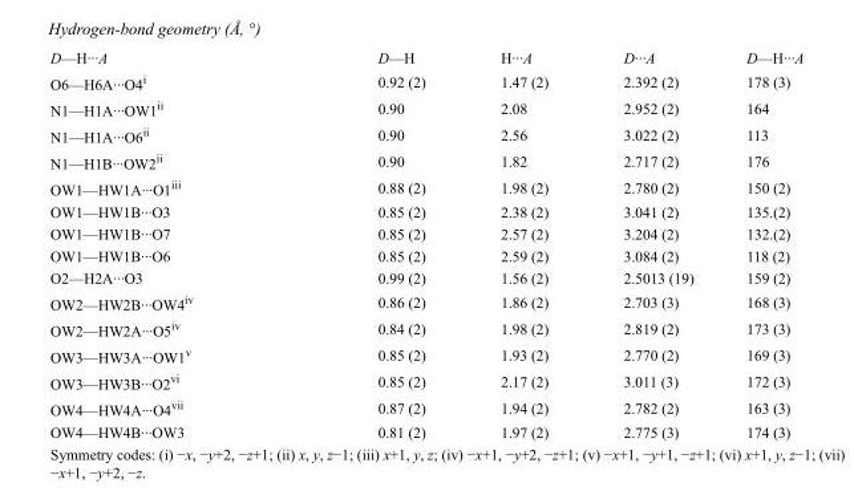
<table><tbody><tr><td>D—H···A</td><td>D—H</td><td>H···A</td><td>D···A</td><td>D—H···A</td></tr><tr><td>O6—H6A···O4<sup>i</sup></td><td>0.92 (2)</td><td>1.47 (2)</td><td>2.392 (2)</td><td>178 (3)</td></tr><tr><td>N1—H1A···OW1<sup>ii</sup></td><td>0.90</td><td>2.08</td><td>2.952 (2)</td><td>164</td></tr><tr><td>N1—H1A···O6<sup>ii</sup></td><td>0.90</td><td>2.56</td><td>3.022 (2)</td><td>113</td></tr><tr><td>N1—H1B···OW2<sup>ii</sup></td><td>0.90</td><td>1.82</td><td>2.717 (2)</td><td>176</td></tr><tr><td>OW1—HW1A···O1<sup>iii</sup></td><td>0.88 (2)</td><td>1.98 (2)</td><td>2.780 (2)</td><td>150 (2)</td></tr><tr><td>OW1—HW1B···O3</td><td>0.85 (2)</td><td>2.38 (2)</td><td>3.041 (2)</td><td>135.(2)</td></tr><tr><td>OW1—HW1B···O7</td><td>0.85 (2)</td><td>2.57 (2)</td><td>3.204 (2)</td><td>132.(2)</td></tr><tr><td>OW1—HW1B···O6</td><td>0.85 (2)</td><td>2.59 (2)</td><td>3.084 (2)</td><td>118 (2)</td></tr><tr><td>O2—H2A···O3</td><td>0.99 (2)</td><td>1.56 (2)</td><td>2.5013 (19)</td><td>159 (2)</td></tr><tr><td>OW2—HW2B···OW4<sup>iv</sup></td><td>0.86 (2)</td><td>1.86 (2)</td><td>2.703 (3)</td><td>168 (3)</td></tr><tr><td>OW2—HW2A···O5<sup>iv</sup></td><td>0.84 (2)</td><td>1.98 (2)</td><td>2.819 (2)</td><td>173 (3)</td></tr><tr><td>OW3—HW3A···OW1<sup>v</sup></td><td>0.85 (2)</td><td>1.93 (2)</td><td>2.770 (2)</td><td>169 (3)</td></tr><tr><td>OW3—HW3B···O2<sup>vi</sup></td><td>0.85 (2)</td><td>2.17 (2)</td><td>3.011 (3)</td><td>172 (3)</td></tr><tr><td>OW4—HW4A···O4<sup>vii</sup></td><td>0.87 (2)</td><td>1.94 (2)</td><td>2.782 (2)</td><td>163 (3)</td></tr><tr><td>OW4—HW4B···OW3</td><td>0.81 (2)</td><td>1.97 (2)</td><td>2.775 (3)</td><td>174 (3)</td></tr></tbody></table>